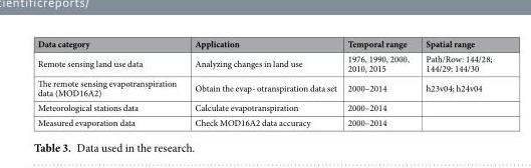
<table><thead><tr><td>Data category</td><td>Application</td><td>Temporal range</td><td>Spatial range</td></tr></thead><tbody><tr><td>Remote sensing land use data</td><td>Analyzing changes in land use</td><td>1976, 1990, 2000, 2010, 2015</td><td>Path/Row: 144/28; 144/29; 144/30</td></tr><tr><td>The remote sensing evapotranspiration data (MOD16A2)</td><td>Obtain the evap- otranspiration data set</td><td>2000–2014</td><td>h23v04; h24v04</td></tr><tr><td>Meteorological stations data</td><td>Calculate evapotranspiration</td><td>2000–2014</td><td></td></tr><tr><td>Measured evaporation data</td><td>Check MOD16A2 data accuracy</td><td>2000–2014</td><td></td></tr></tbody></table>